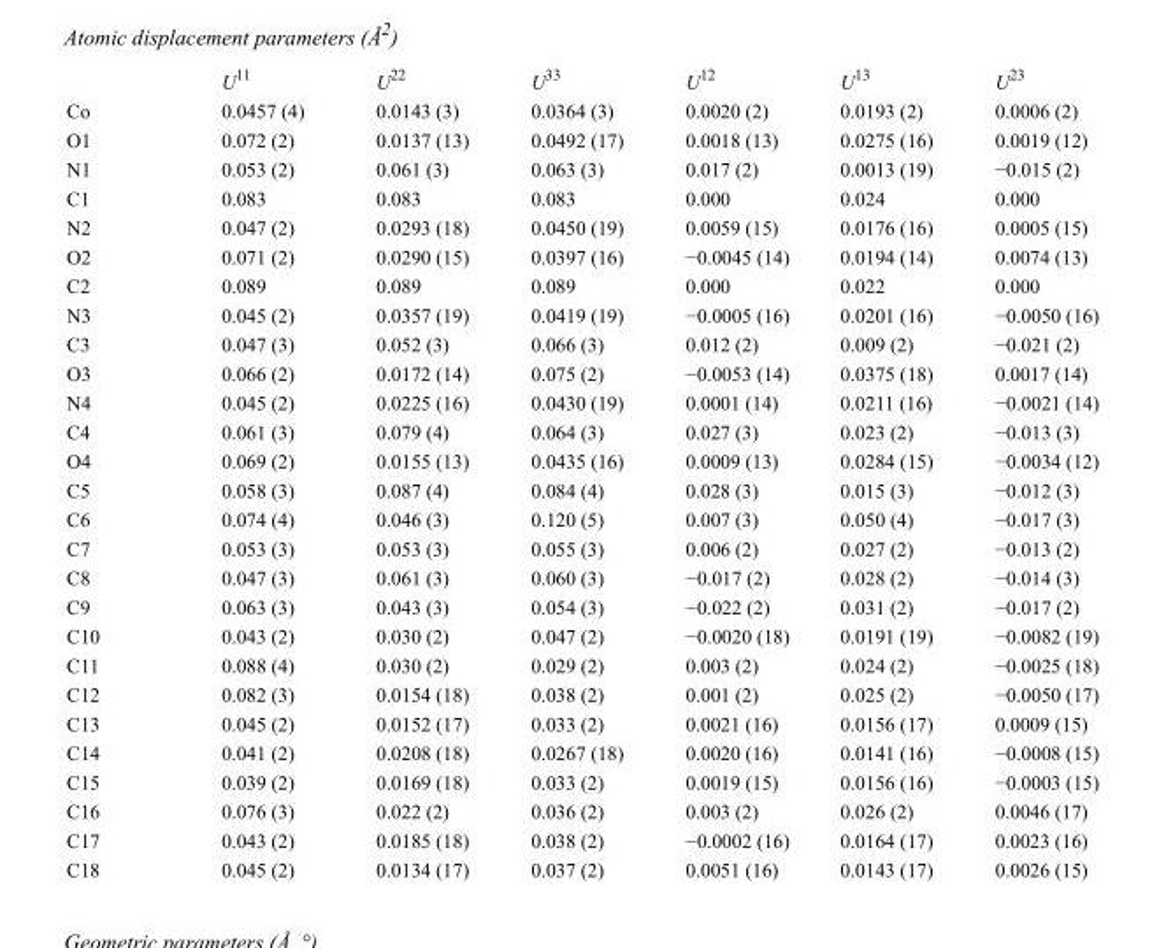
<table><thead><tr><td></td><td>U<sup>11</sup></td><td>U<sup>22</sup></td><td>U<sup>33</sup></td><td>U<sup>12</sup></td><td>U<sup>13</sup></td><td>U<sup>23</sup></td></tr></thead><tbody><tr><td>Co</td><td>0.0457 (4)</td><td>0.0143 (3)</td><td>0.0364 (3)</td><td>0.0020 (2)</td><td>0.0193 (2)</td><td>0.0006 (2)</td></tr><tr><td>O1</td><td>0.072 (2)</td><td>0.0137 (13)</td><td>0.0492 (17)</td><td>0.0018 (13)</td><td>0.0275 (16)</td><td>0.0019 (12)</td></tr><tr><td>N1</td><td>0.053 (2)</td><td>0.061 (3)</td><td>0.063 (3)</td><td>0.017 (2)</td><td>0.0013 (19)</td><td>−0.015 (2)</td></tr><tr><td>C1</td><td>0.083</td><td>0.083</td><td>0.083</td><td>0.000</td><td>0.024</td><td>0.000</td></tr><tr><td>N2</td><td>0.047 (2)</td><td>0.0293 (18)</td><td>0.0450 (19)</td><td>0.0059 (15)</td><td>0.0176 (16)</td><td>0.0005 (15)</td></tr><tr><td>O2</td><td>0.071 (2)</td><td>0.0290 (15)</td><td>0.0397 (16)</td><td>−0.0045 (14)</td><td>0.0194 (14)</td><td>0.0074 (13)</td></tr><tr><td>C2</td><td>0.089</td><td>0.089</td><td>0.089</td><td>0.000</td><td>0.022</td><td>0.000</td></tr><tr><td>N3</td><td>0.045 (2)</td><td>0.0357 (19)</td><td>0.0419 (19)</td><td>−0.0005 (16)</td><td>0.0201 (16)</td><td>−0.0050 (16)</td></tr><tr><td>C3</td><td>0.047 (3)</td><td>0.052 (3)</td><td>0.066 (3)</td><td>0.012 (2)</td><td>0.009 (2)</td><td>−0.021 (2)</td></tr><tr><td>O3</td><td>0.066 (2)</td><td>0.0172 (14)</td><td>0.075 (2)</td><td>−0.0053 (14)</td><td>0.0375 (18)</td><td>0.0017 (14)</td></tr><tr><td>N4</td><td>0.045 (2)</td><td>0.0225 (16)</td><td>0.0430 (19)</td><td>0.0001 (14)</td><td>0.0211 (16)</td><td>−0.0021 (14)</td></tr><tr><td>C4</td><td>0.061 (3)</td><td>0.079 (4)</td><td>0.064 (3)</td><td>0.027 (3)</td><td>0.023 (2)</td><td>−0.013 (3)</td></tr><tr><td>O4</td><td>0.069 (2)</td><td>0.0155 (13)</td><td>0.0435 (16)</td><td>0.0009 (13)</td><td>0.0284 (15)</td><td>−0.0034 (12)</td></tr><tr><td>C5</td><td>0.058 (3)</td><td>0.087 (4)</td><td>0.084 (4)</td><td>0.028 (3)</td><td>0.015 (3)</td><td>−0.012 (3)</td></tr><tr><td>C6</td><td>0.074 (4)</td><td>0.046 (3)</td><td>0.120 (5)</td><td>0.007 (3)</td><td>0.050 (4)</td><td>−0.017 (3)</td></tr><tr><td>C7</td><td>0.053 (3)</td><td>0.053 (3)</td><td>0.055 (3)</td><td>0.006 (2)</td><td>0.027 (2)</td><td>−0.013 (2)</td></tr><tr><td>C8</td><td>0.047 (3)</td><td>0.061 (3)</td><td>0.060 (3)</td><td>−0.017 (2)</td><td>0.028 (2)</td><td>−0.014 (3)</td></tr><tr><td>C9</td><td>0.063 (3)</td><td>0.043 (3)</td><td>0.054 (3)</td><td>−0.022 (2)</td><td>0.031 (2)</td><td>−0.017 (2)</td></tr><tr><td>C10</td><td>0.043 (2)</td><td>0.030 (2)</td><td>0.047 (2)</td><td>−0.0020 (18)</td><td>0.0191 (19)</td><td>−0.0082 (19)</td></tr><tr><td>C11</td><td>0.088 (4)</td><td>0.030 (2)</td><td>0.029 (2)</td><td>0.003 (2)</td><td>0.024 (2)</td><td>−0.0025 (18)</td></tr><tr><td>C12</td><td>0.082 (3)</td><td>0.0154 (18)</td><td>0.038 (2)</td><td>0.001 (2)</td><td>0.025 (2)</td><td>−0.0050 (17)</td></tr><tr><td>C13</td><td>0.045 (2)</td><td>0.0152 (17)</td><td>0.033 (2)</td><td>0.0021 (16)</td><td>0.0156 (17)</td><td>0.0009 (15)</td></tr><tr><td>C14</td><td>0.041 (2)</td><td>0.0208 (18)</td><td>0.0267 (18)</td><td>0.0020 (16)</td><td>0.0141 (16)</td><td>−0.0008 (15)</td></tr><tr><td>C15</td><td>0.039 (2)</td><td>0.0169 (18)</td><td>0.033 (2)</td><td>0.0019 (15)</td><td>0.0156 (16)</td><td>−0.0003 (15)</td></tr><tr><td>C16</td><td>0.076 (3)</td><td>0.022 (2)</td><td>0.036 (2)</td><td>0.003 (2)</td><td>0.026 (2)</td><td>0.0046 (17)</td></tr><tr><td>C17</td><td>0.043 (2)</td><td>0.0185 (18)</td><td>0.038 (2)</td><td>−0.0002 (16)</td><td>0.0164 (17)</td><td>0.0023 (16)</td></tr><tr><td>C18</td><td>0.045 (2)</td><td>0.0134 (17)</td><td>0.037 (2)</td><td>0.0051 (16)</td><td>0.0143 (17)</td><td>0.0026 (15)</td></tr></tbody></table>